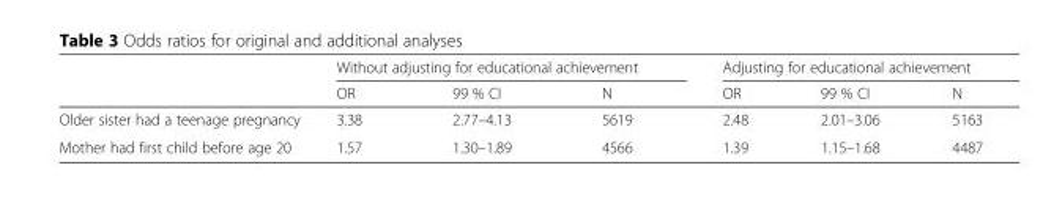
<table><thead><tr><td rowspan="2"></td><td colspan="3">Without adjusting for educational achievement</td><td colspan="3">Adjusting for educational achievement</td></tr><tr><td>OR</td><td>99 % CI</td><td>N</td><td>OR</td><td>99 % CI</td><td>N</td></tr></thead><tbody><tr><td>Older sister had a teenage pregnancy</td><td>3.38</td><td>2.77–4.13</td><td>5619</td><td>2.48</td><td>2.01–3.06</td><td>5163</td></tr><tr><td>Mother had first child before age 20</td><td>1.57</td><td>1.30–1.89</td><td>4566</td><td>1.39</td><td>1.15–1.68</td><td>4487</td></tr></tbody></table>